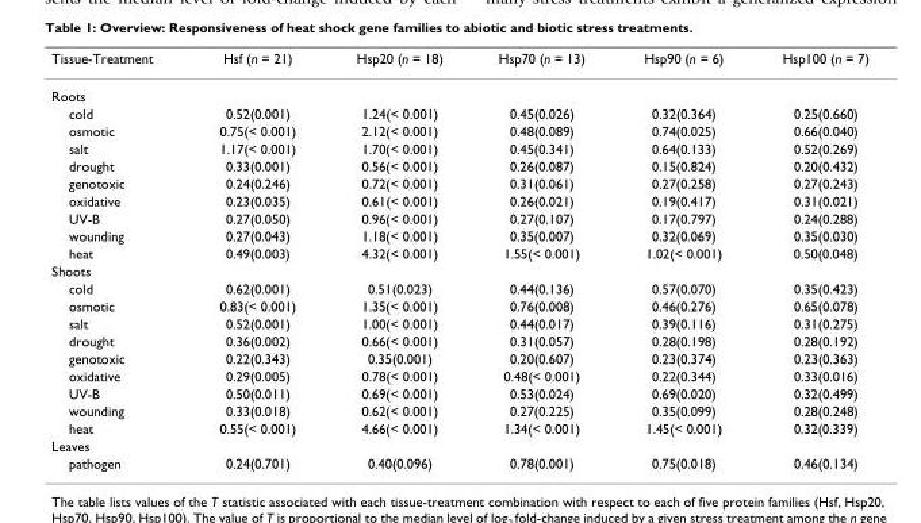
<table><thead><tr><td>Tissue-Treatment</td><td>Hsf (n = 21)</td><td>Hsp20 (n = 18)</td><td>Hsp70 (n = 13)</td><td>Hsp90 (n = 6)</td><td>Hsp100 (n = 7)</td></tr></thead><tbody><tr><td colspan="6">Roots</td></tr><tr><td>cold</td><td>0.52(0.001)</td><td>1.24(&lt; 0.001)</td><td>0.45(0.026)</td><td>0.32(0.364)</td><td>0.25(0.660)</td></tr><tr><td>osmotic</td><td>0.75(&lt; 0.001)</td><td>2.12(&lt; 0.001)</td><td>0.48(0.089)</td><td>0.74(0.025)</td><td>0.66(0.040)</td></tr><tr><td>salt</td><td>1.17(&lt; 0.001)</td><td>1.70(&lt; 0.001)</td><td>0.45(0.341)</td><td>0.64(0.133)</td><td>0.52(0.269)</td></tr><tr><td>drought</td><td>0.33(0.001)</td><td>0.56(&lt; 0.001)</td><td>0.26(0.087)</td><td>0.15(0.824)</td><td>0.20(0.432)</td></tr><tr><td>genotoxic</td><td>0.24(0.246)</td><td>0.72(&lt; 0.001)</td><td>0.31(0.061)</td><td>0.27(0.258)</td><td>0.27(0.243)</td></tr><tr><td>oxidative</td><td>0.23(0.035)</td><td>0.61(&lt; 0.001)</td><td>0.26(0.021)</td><td>0.19(0.417)</td><td>0.31(0.021)</td></tr><tr><td>UV-B</td><td>0.27(0.050)</td><td>0.96(&lt; 0.001)</td><td>0.27(0.107)</td><td>0.17(0.797)</td><td>0.24(0.288)</td></tr><tr><td>wounding</td><td>0.27(0.043)</td><td>1.18(&lt; 0.001)</td><td>0.35(0.007)</td><td>0.32(0.069)</td><td>0.35(0.030)</td></tr><tr><td>heat</td><td>0.49(0.003)</td><td>4.32(&lt; 0.001)</td><td>1.55(&lt; 0.001)</td><td>1.02(&lt; 0.001)</td><td>0.50(0.048)</td></tr><tr><td colspan="6">Shoots</td></tr><tr><td>cold</td><td>0.62(0.001)</td><td>0.51(0.023)</td><td>0.44(0.136)</td><td>0.57(0.070)</td><td>0.35(0.423)</td></tr><tr><td>osmotic</td><td>0.83(&lt; 0.001)</td><td>1.35(&lt; 0.001)</td><td>0.76(0.008)</td><td>0.46(0.276)</td><td>0.65(0.078)</td></tr><tr><td>salt</td><td>0.52(0.001)</td><td>1.00(&lt; 0.001)</td><td>0.44(0.017)</td><td>0.39(0.116)</td><td>0.31(0.275)</td></tr><tr><td>drought</td><td>0.36(0.002)</td><td>0.66(&lt; 0.001)</td><td>0.31(0.057)</td><td>0.28(0.198)</td><td>0.28(0.192)</td></tr><tr><td>genotoxic</td><td>0.22(0.343)</td><td>0.35(0.001)</td><td>0.20(0.607)</td><td>0.23(0.374)</td><td>0.23(0.363)</td></tr><tr><td>oxidative</td><td>0.29(0.005)</td><td>0.78(&lt; 0.001)</td><td>0.48(&lt; 0.001)</td><td>0.22(0.344)</td><td>0.33(0.016)</td></tr><tr><td>UV-B</td><td>0.50(0.011)</td><td>0.69(&lt; 0.001)</td><td>0.53(0.024)</td><td>0.69(0.020)</td><td>0.32(0.499)</td></tr><tr><td>wounding</td><td>0.33(0.018)</td><td>0.62(&lt; 0.001)</td><td>0.27(0.225)</td><td>0.35(0.099)</td><td>0.28(0.248)</td></tr><tr><td>heat</td><td>0.55(&lt; 0.001)</td><td>4.66(&lt; 0.001)</td><td>1.34(&lt; 0.001)</td><td>1.45(&lt; 0.001)</td><td>0.32(0.339)</td></tr><tr><td colspan="6">Leaves</td></tr><tr><td>pathogen</td><td>0.24(0.701)</td><td>0.40(0.096)</td><td>0.78(0.001)</td><td>0.75(0.018)</td><td>0.46(0.134)</td></tr></tbody></table>